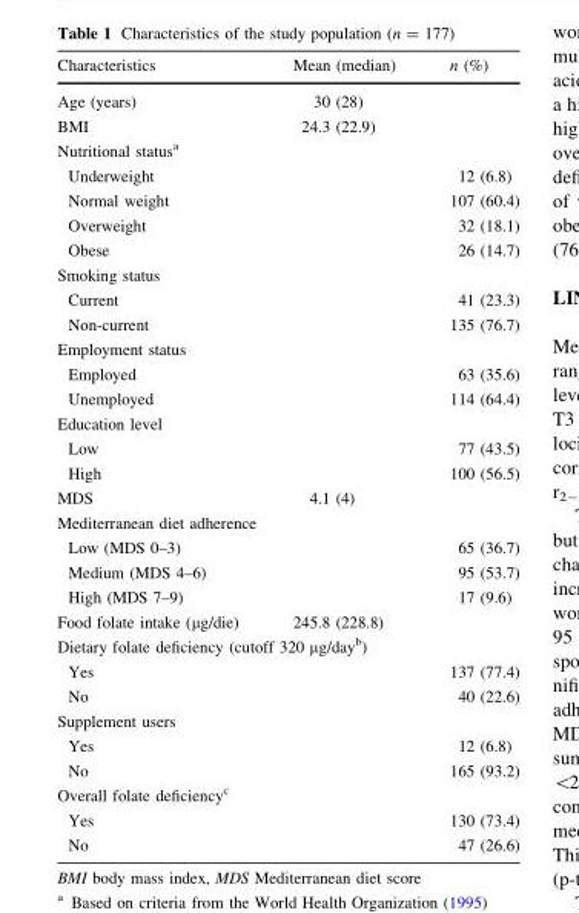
<table><thead><tr><td>Characteristics</td><td>Mean (median)</td><td>n (%)</td></tr></thead><tbody><tr><td>Age (years)</td><td>30 (28)</td><td></td></tr><tr><td>BMI</td><td>24.3 (22.9)</td><td></td></tr><tr><td colspan="3">Nutritional status<sup>a</sup></td></tr><tr><td>Underweight</td><td></td><td>12 (6.8)</td></tr><tr><td>Normal weight</td><td></td><td>107 (60.4)</td></tr><tr><td>Overweight</td><td></td><td>32 (18.1)</td></tr><tr><td>Obese</td><td></td><td>26 (14.7)</td></tr><tr><td colspan="3">Smoking status</td></tr><tr><td>Current</td><td></td><td>41 (23.3)</td></tr><tr><td>Non-current</td><td></td><td>135 (76.7)</td></tr><tr><td colspan="3">Employment status</td></tr><tr><td>Employed</td><td></td><td>63 (35.6)</td></tr><tr><td>Unemployed</td><td></td><td>114 (64.4)</td></tr><tr><td colspan="3">Education level</td></tr><tr><td>Low</td><td></td><td>77 (43.5)</td></tr><tr><td>High</td><td></td><td>100 (56.5)</td></tr><tr><td>MDS</td><td>4.1 (4)</td><td></td></tr><tr><td colspan="3">Mediterranean diet adherence</td></tr><tr><td>Low (MDS 0–3)</td><td></td><td>65 (36.7)</td></tr><tr><td>Medium (MDS 4–6)</td><td></td><td>95 (53.7)</td></tr><tr><td>High (MDS 7–9)</td><td></td><td>17 (9.6)</td></tr><tr><td>Food folate intake (µg/die)</td><td>245.8 (228.8)</td><td></td></tr><tr><td colspan="3">Dietary folate deficiency (cutoff 320 µg/day<sup>b</sup>)</td></tr><tr><td>Yes</td><td></td><td>137 (77.4)</td></tr><tr><td>No</td><td></td><td>40 (22.6)</td></tr><tr><td colspan="3">Supplement users</td></tr><tr><td>Yes</td><td></td><td>12 (6.8)</td></tr><tr><td>No</td><td></td><td>165 (93.2)</td></tr><tr><td colspan="3">Overall folate deficiency<sup>c</sup></td></tr><tr><td>Yes</td><td></td><td>130 (73.4)</td></tr><tr><td>No</td><td></td><td>47 (26.6)</td></tr></tbody></table>